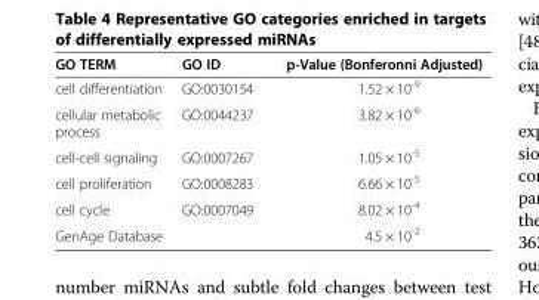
<table><thead><tr><td>GO TERM</td><td>GO ID</td><td>p-Value (Bonferonni Adjusted)</td></tr></thead><tbody><tr><td>cell differentiation</td><td>GO:0030154</td><td>1.52 × 10<sup>-9</sup></td></tr><tr><td>cellular metabolic process</td><td>GO:0044237</td><td>3.82 × 10<sup>-6</sup></td></tr><tr><td>cell-cell signaling</td><td>GO:0007267</td><td>1.05 × 10<sup>-5</sup></td></tr><tr><td>cell proliferation</td><td>GO:0008283</td><td>6.66 × 10<sup>-5</sup></td></tr><tr><td>cell cycle</td><td>GO:0007049</td><td>8.02 × 10<sup>-4</sup></td></tr><tr><td>GenAge Database</td><td></td><td>4.5 × 10<sup>-2</sup></td></tr></tbody></table>